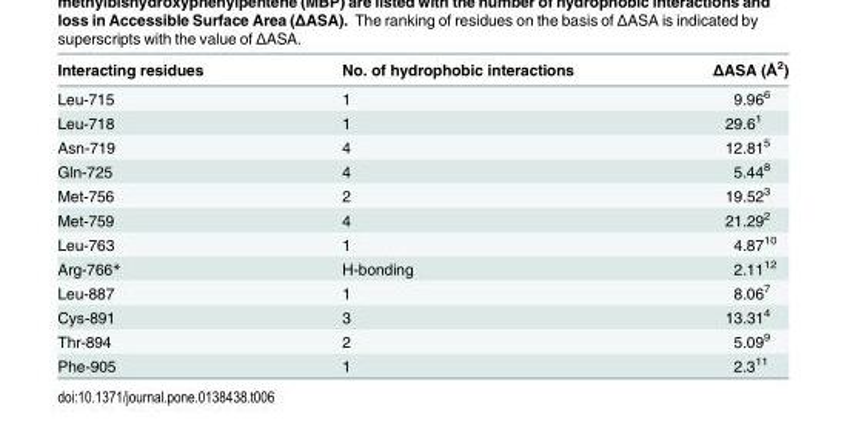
<table><thead><tr><td>Interacting residues</td><td>No. of hydrophobic interactions</td><td>ΔASA (Å<sup>2</sup>)</td></tr></thead><tbody><tr><td>Leu-715</td><td>1</td><td>9.96<sup>6</sup></td></tr><tr><td>Leu-718</td><td>1</td><td>29.6<sup>1</sup></td></tr><tr><td>Asn-719</td><td>4</td><td>12.81<sup>5</sup></td></tr><tr><td>Gln-725</td><td>4</td><td>5.44<sup>8</sup></td></tr><tr><td>Met-756</td><td>2</td><td>19.52<sup>3</sup></td></tr><tr><td>Met-759</td><td>4</td><td>21.29<sup>2</sup></td></tr><tr><td>Leu-763</td><td>1</td><td>4.87<sup>10</sup></td></tr><tr><td>Arg-766*</td><td>H-bonding</td><td>2.11<sup>12</sup></td></tr><tr><td>Leu-887</td><td>1</td><td>8.06<sup>7</sup></td></tr><tr><td>Cys-891</td><td>3</td><td>13.31<sup>4</sup></td></tr><tr><td>Thr-894</td><td>2</td><td>5.09<sup>9</sup></td></tr><tr><td>Phe-905</td><td>1</td><td>2.3<sup>11</sup></td></tr></tbody></table>